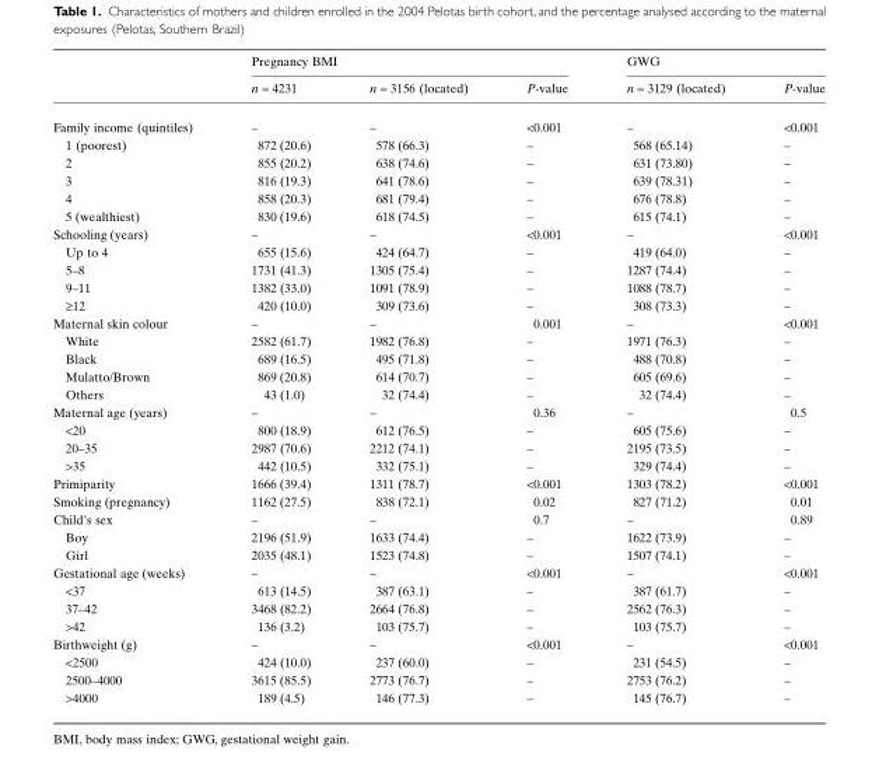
<table><thead><tr><td rowspan="2"></td><td colspan="3">Pregnancy BMI</td><td colspan="2">GWG</td></tr><tr><td>n = 4231</td><td>n = 3156 (located)</td><td>P-value</td><td>n = 3129 (located)</td><td>P-value</td></tr></thead><tbody><tr><td>Family income (quintiles)</td><td>–</td><td>–</td><td>&lt;0.001</td><td>–</td><td>&lt;0.001</td></tr><tr><td>1 (poorest)</td><td>872 (20.6)</td><td>578 (66.3)</td><td>–</td><td>568 (65.14)</td><td>–</td></tr><tr><td>2</td><td>855 (20.2)</td><td>638 (74.6)</td><td>–</td><td>631 (73.80)</td><td>–</td></tr><tr><td>3</td><td>816 (19.3)</td><td>641 (78.6)</td><td>–</td><td>639 (78.31)</td><td>–</td></tr><tr><td>4</td><td>858 (20.3)</td><td>681 (79.4)</td><td>–</td><td>676 (78.8)</td><td>–</td></tr><tr><td>5 (wealthiest)</td><td>830 (19.6)</td><td>618 (74.5)</td><td>–</td><td>615 (74.1)</td><td>–</td></tr><tr><td>Schooling (years)</td><td>–</td><td>–</td><td>&lt;0.001</td><td>–</td><td>&lt;0.001</td></tr><tr><td>Up to 4</td><td>655 (15.6)</td><td>424 (64.7)</td><td>–</td><td>419 (64.0)</td><td>–</td></tr><tr><td>5–8</td><td>1731 (41.3)</td><td>1305 (75.4)</td><td>–</td><td>1287 (74.4)</td><td>–</td></tr><tr><td>9–11</td><td>1382 (33.0)</td><td>1091 (78.9)</td><td>–</td><td>1088 (78.7)</td><td>–</td></tr><tr><td>≥12</td><td>420 (10.0)</td><td>309 (73.6)</td><td>–</td><td>308 (73.3)</td><td>–</td></tr><tr><td>Maternal skin colour</td><td>–</td><td>–</td><td>0.001</td><td>–</td><td>&lt;0.001</td></tr><tr><td>White</td><td>2582 (61.7)</td><td>1982 (76.8)</td><td>–</td><td>1971 (76.3)</td><td>–</td></tr><tr><td>Black</td><td>689 (16.5)</td><td>495 (71.8)</td><td>–</td><td>488 (70.8)</td><td>–</td></tr><tr><td>Mulatto/Brown</td><td>869 (20.8)</td><td>614 (70.7)</td><td>–</td><td>605 (69.6)</td><td>–</td></tr><tr><td>Others</td><td>43 (1.0)</td><td>32 (74.4)</td><td>–</td><td>32 (74.4)</td><td>–</td></tr><tr><td>Maternal age (years)</td><td>–</td><td>–</td><td>0.36</td><td>–</td><td>0.5</td></tr><tr><td>&lt;20</td><td>800 (18.9)</td><td>612 (76.5)</td><td>–</td><td>605 (75.6)</td><td>–</td></tr><tr><td>20–35</td><td>2987 (70.6)</td><td>2212 (74.1)</td><td>–</td><td>2195 (73.5)</td><td>–</td></tr><tr><td>&gt;35</td><td>442 (10.5)</td><td>332 (75.1)</td><td>–</td><td>329 (74.4)</td><td>–</td></tr><tr><td>Primiparity</td><td>1666 (39.4)</td><td>1311 (78.7)</td><td>&lt;0.001</td><td>1303 (78.2)</td><td>&lt;0.001</td></tr><tr><td>Smoking (pregnancy)</td><td>1162 (27.5)</td><td>838 (72.1)</td><td>0.02</td><td>827 (71.2)</td><td>0.01</td></tr><tr><td>Child’s sex</td><td>–</td><td>–</td><td>0.7</td><td>–</td><td>0.89</td></tr><tr><td>Boy</td><td>2196 (51.9)</td><td>1633 (74.4)</td><td>–</td><td>1622 (73.9)</td><td>–</td></tr><tr><td>Girl</td><td>2035 (48.1)</td><td>1523 (74.8)</td><td>–</td><td>1507 (74.1)</td><td>–</td></tr><tr><td>Gestational age (weeks)</td><td>–</td><td>–</td><td>&lt;0.001</td><td>–</td><td>&lt;0.001</td></tr><tr><td>&lt;37</td><td>613 (14.5)</td><td>387 (63.1)</td><td>–</td><td>387 (61.7)</td><td>–</td></tr><tr><td>37–42</td><td>3468 (82.2)</td><td>2664 (76.8)</td><td>–</td><td>2562 (76.3)</td><td>–</td></tr><tr><td>&gt;42</td><td>136 (3.2)</td><td>103 (75.7)</td><td>–</td><td>103 (75.7)</td><td>–</td></tr><tr><td>Birthweight (g)</td><td>–</td><td>–</td><td>&lt;0.001</td><td>–</td><td>&lt;0.001</td></tr><tr><td>&lt;2500</td><td>424 (10.0)</td><td>237 (60.0)</td><td>–</td><td>231 (54.5)</td><td>–</td></tr><tr><td>2500–4000</td><td>3615 (85.5)</td><td>2773 (76.7)</td><td>–</td><td>2753 (76.2)</td><td>–</td></tr><tr><td>&gt;4000</td><td>189 (4.5)</td><td>146 (77.3)</td><td>–</td><td>145 (76.7)</td><td>–</td></tr></tbody></table>